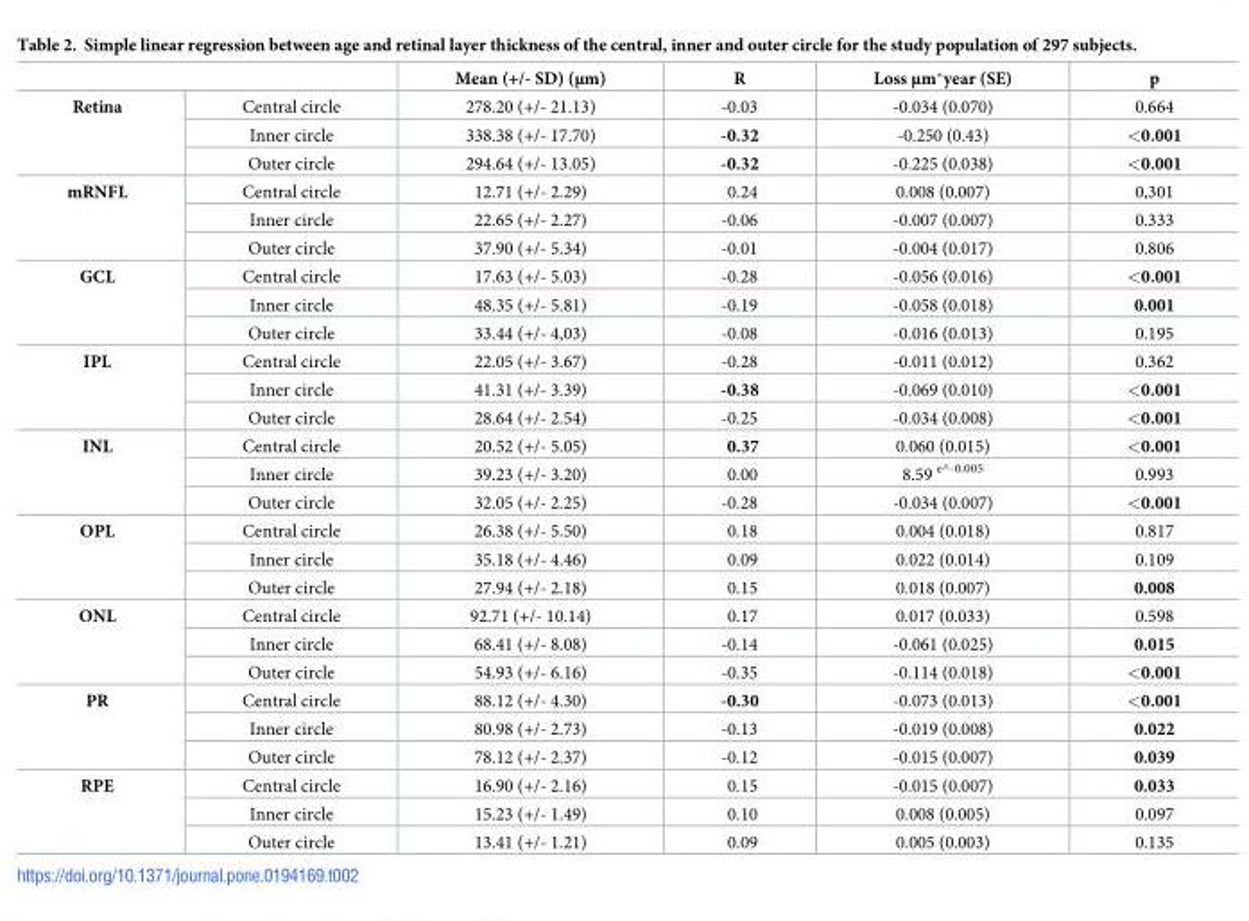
<table><thead><tr><td></td><td></td><td>Mean (+/- SD) (μm)</td><td>R</td><td>Loss μm*year (SE)</td><td>p</td></tr></thead><tbody><tr><td rowspan="3">Retina</td><td>Central circle</td><td>278.20 (+/- 21.13)</td><td>-0.03</td><td>-0.034 (0.070)</td><td>0.664</td></tr><tr><td>Inner circle</td><td>338.38 (+/- 17.70)</td><td>-0.32</td><td>-0.250 (0.43)</td><td>&lt;0.001</td></tr><tr><td>Outer circle</td><td>294.64 (+/- 13.05)</td><td>-0.32</td><td>-0.225 (0.038)</td><td>&lt;0.001</td></tr><tr><td rowspan="3">mRNFL</td><td>Central circle</td><td>12.71 (+/- 2.29)</td><td>0.24</td><td>0.008 (0.007)</td><td>0,301</td></tr><tr><td>Inner circle</td><td>22.65 (+/- 2.27)</td><td>-0.06</td><td>-0.007 (0.007)</td><td>0.333</td></tr><tr><td>Outer circle</td><td>37.90 (+/- 5.34)</td><td>-0.01</td><td>-0.004 (0.017)</td><td>0.806</td></tr><tr><td rowspan="3">GCL</td><td>Central circle</td><td>17.63 (+/- 5.03)</td><td>-0.28</td><td>-0.056 (0.016)</td><td>&lt;0.001</td></tr><tr><td>Inner circle</td><td>48.35 (+/- 5.81)</td><td>-0.19</td><td>-0.058 (0.018)</td><td>0.001</td></tr><tr><td>Outer circle</td><td>33.44 (+/- 4,03)</td><td>-0.08</td><td>-0.016 (0.013)</td><td>0.195</td></tr><tr><td rowspan="3">IPL</td><td>Central circle</td><td>22.05 (+/- 3.67)</td><td>-0.28</td><td>-0.011 (0.012)</td><td>0.362</td></tr><tr><td>Inner circle</td><td>41.31 (+/- 3.39)</td><td>-0.38</td><td>-0.069 (0.010)</td><td>&lt;0.001</td></tr><tr><td>Outer circle</td><td>28.64 (+/- 2.54)</td><td>-0.25</td><td>-0.034 (0.008)</td><td>&lt;0.001</td></tr><tr><td rowspan="3">INL</td><td>Central circle</td><td>20.52 (+/- 5.05)</td><td>0.37</td><td>0.060 (0.015)</td><td>&lt;0.001</td></tr><tr><td>Inner circle</td><td>39.23 (+/- 3.20)</td><td>0.00</td><td>8.59 <sup>e^-0.005</sup></td><td>0.993</td></tr><tr><td>Outer circle</td><td>32.05 (+/- 2.25)</td><td>-0.28</td><td>-0.034 (0.007)</td><td>&lt;0.001</td></tr><tr><td rowspan="3">OPL</td><td>Central circle</td><td>26.38 (+/- 5.50)</td><td>0.18</td><td>0.004 (0.018)</td><td>0.817</td></tr><tr><td>Inner circle</td><td>35.18 (+/- 4.46)</td><td>0.09</td><td>0.022 (0.014)</td><td>0.109</td></tr><tr><td>Outer circle</td><td>27.94 (+/- 2.18)</td><td>0.15</td><td>0.018 (0.007)</td><td>0.008</td></tr><tr><td rowspan="3">ONL</td><td>Central circle</td><td>92.71 (+/- 10.14)</td><td>0.17</td><td>0.017 (0.033)</td><td>0.598</td></tr><tr><td>Inner circle</td><td>68.41 (+/- 8.08)</td><td>-0.14</td><td>-0.061 (0.025)</td><td>0.015</td></tr><tr><td>Outer circle</td><td>54.93 (+/- 6.16)</td><td>-0.35</td><td>-0.114 (0.018)</td><td>&lt;0.001</td></tr><tr><td rowspan="3">PR</td><td>Central circle</td><td>88.12 (+/- 4.30)</td><td>-0.30</td><td>-0.073 (0.013)</td><td>&lt;0.001</td></tr><tr><td>Inner circle</td><td>80.98 (+/- 2.73)</td><td>-0.13</td><td>-0.019 (0.008)</td><td>0.022</td></tr><tr><td>Outer circle</td><td>78.12 (+/- 2.37)</td><td>-0.12</td><td>-0.015 (0.007)</td><td>0.039</td></tr><tr><td rowspan="3">RPE</td><td>Central circle</td><td>16.90 (+/- 2.16)</td><td>0.15</td><td>-0.015 (0.007)</td><td>0.033</td></tr><tr><td>Inner circle</td><td>15.23 (+/- 1.49)</td><td>0.10</td><td>0.008 (0.005)</td><td>0.097</td></tr><tr><td>Outer circle</td><td>13.41 (+/- 1.21)</td><td>0.09</td><td>0.005 (0.003)</td><td>0.135</td></tr></tbody></table>